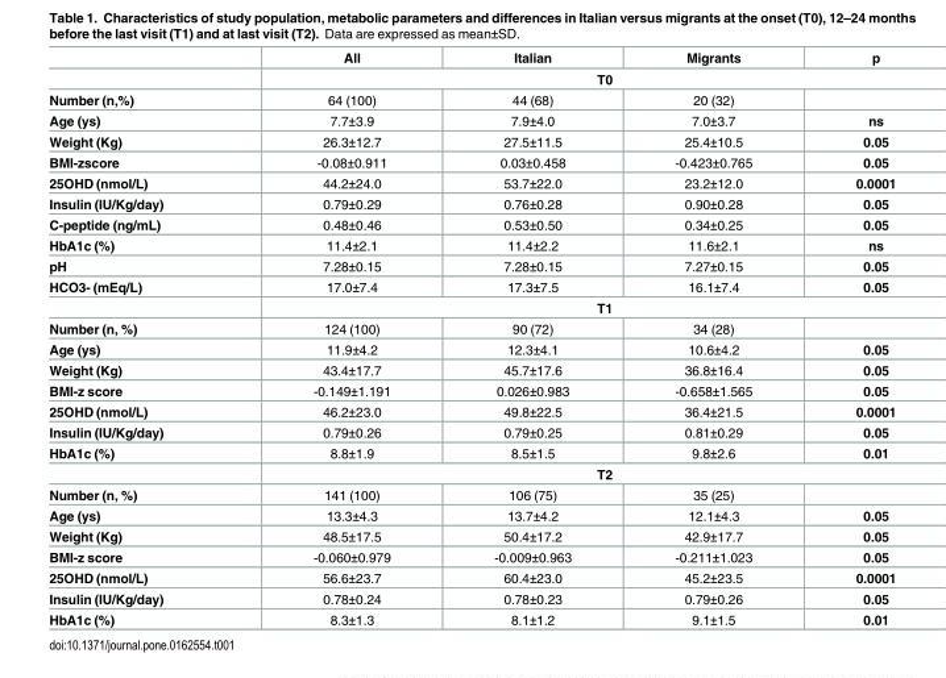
<table><thead><tr><td></td><td>All</td><td>Italian</td><td>Migrants</td><td>p</td></tr></thead><tbody><tr><td></td><td colspan="4">T0</td></tr><tr><td>Number (n,%)</td><td>64 (100)</td><td>44 (68)</td><td>20 (32)</td><td></td></tr><tr><td>Age (ys)</td><td>7.7±3.9</td><td>7.9±4.0</td><td>7.0±3.7</td><td>ns</td></tr><tr><td>Weight (Kg)</td><td>26.3±12.7</td><td>27.5±11.5</td><td>25.4±10.5</td><td>0.05</td></tr><tr><td>BMI-zscore</td><td>-0.08±0.911</td><td>0.03±0.458</td><td>-0.423±0.765</td><td>0.05</td></tr><tr><td>25OHD (nmol/L)</td><td>44.2±24.0</td><td>53.7±22.0</td><td>23.2±12.0</td><td>0.0001</td></tr><tr><td>Insulin (IU/Kg/day)</td><td>0.79±0.29</td><td>0.76±0.28</td><td>0.90±0.28</td><td>0.05</td></tr><tr><td>C-peptide (ng/mL)</td><td>0.48±0.46</td><td>0.53±0.50</td><td>0.34±0.25</td><td>0.05</td></tr><tr><td>HbA1c (%)</td><td>11.4±2.1</td><td>11.4±2.2</td><td>11.6±2.1</td><td>ns</td></tr><tr><td>pH</td><td>7.28±0.15</td><td>7.28±0.15</td><td>7.27±0.15</td><td>0.05</td></tr><tr><td rowspan="2">HCO3- (mEq/L)</td><td>17.0±7.4</td><td>17.3±7.5</td><td>16.1±7.4</td><td>0.05</td></tr><tr><td colspan="4">T1</td></tr><tr><td>Number (n, %)</td><td>124 (100)</td><td>90 (72)</td><td>34 (28)</td><td></td></tr><tr><td>Age (ys)</td><td>11.9±4.2</td><td>12.3±4.1</td><td>10.6±4.2</td><td>0.05</td></tr><tr><td>Weight (Kg)</td><td>43.4±17.7</td><td>45.7±17.6</td><td>36.8±16.4</td><td>0.05</td></tr><tr><td>BMI-z score</td><td>-0.149±1.191</td><td>0.026±0.983</td><td>-0.658±1.565</td><td>0.05</td></tr><tr><td>25OHD (nmol/L)</td><td>46.2±23.0</td><td>49.8±22.5</td><td>36.4±21.5</td><td>0.0001</td></tr><tr><td>Insulin (IU/Kg/day)</td><td>0.79±0.26</td><td>0.79±0.25</td><td>0.81±0.29</td><td>0.05</td></tr><tr><td rowspan="2">HbA1c (%)</td><td>8.8±1.9</td><td>8.5±1.5</td><td>9.8±2.6</td><td>0.01</td></tr><tr><td colspan="4">T2</td></tr><tr><td>Number (n, %)</td><td>141 (100)</td><td>106 (75)</td><td>35 (25)</td><td></td></tr><tr><td>Age (ys)</td><td>13.3±4.3</td><td>13.7±4.2</td><td>12.1±4.3</td><td>0.05</td></tr><tr><td>Weight (Kg)</td><td>48.5±17.5</td><td>50.4±17.2</td><td>42.9±17.7</td><td>0.05</td></tr><tr><td>BMI-z score</td><td>-0.060±0.979</td><td>-0.009±0.963</td><td>-0.211±1.023</td><td>0.05</td></tr><tr><td>25OHD (nmol/L)</td><td>56.6±23.7</td><td>60.4±23.0</td><td>45.2±23.5</td><td>0.0001</td></tr><tr><td>Insulin (IU/Kg/day)</td><td>0.78±0.24</td><td>0.78±0.23</td><td>0.79±0.26</td><td>0.05</td></tr><tr><td>HbA1c (%)</td><td>8.3±1.3</td><td>8.1±1.2</td><td>9.1±1.5</td><td>0.01</td></tr></tbody></table>